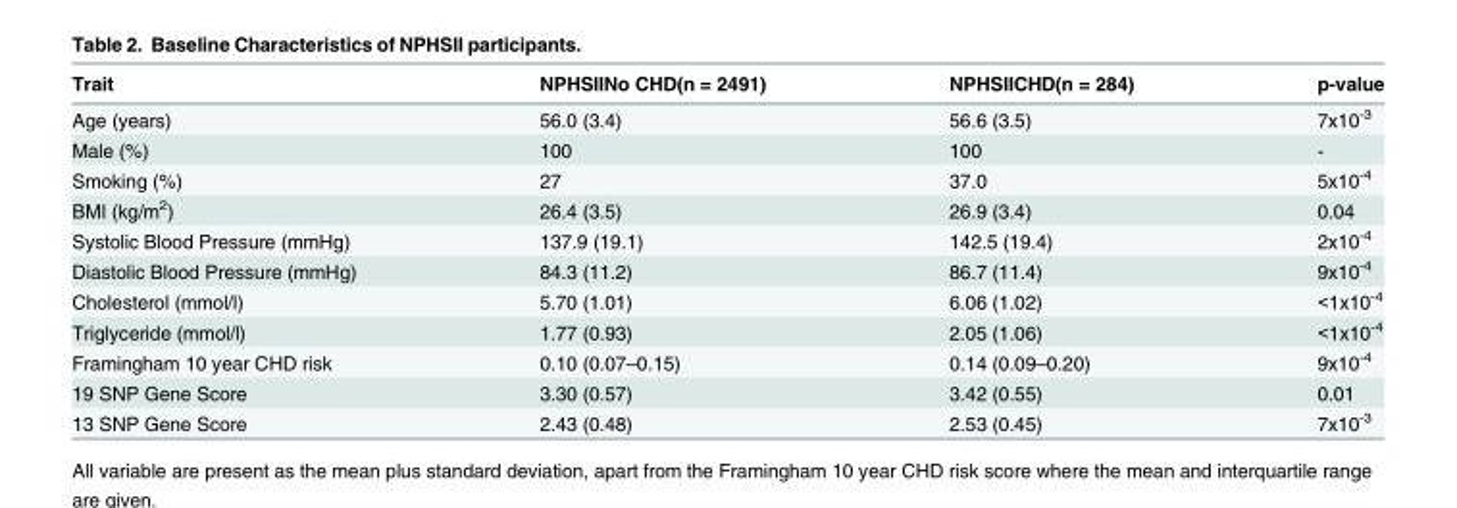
<table><thead><tr><td>Trait</td><td>NPHSIINo CHD(n = 2491)</td><td>NPHSIICHD(n = 284)</td><td>p-value</td></tr></thead><tbody><tr><td>Age (years)</td><td>56.0 (3.4)</td><td>56.6 (3.5)</td><td>7x10<sup>-3</sup></td></tr><tr><td>Male (%)</td><td>100</td><td>100</td><td>-</td></tr><tr><td>Smoking (%)</td><td>27</td><td>37.0</td><td>5x10<sup>-4</sup></td></tr><tr><td>BMI (kg/m<sup>2</sup>)</td><td>26.4 (3.5)</td><td>26.9 (3.4)</td><td>0.04</td></tr><tr><td>Systolic Blood Pressure (mmHg)</td><td>137.9 (19.1)</td><td>142.5 (19.4)</td><td>2x10<sup>-4</sup></td></tr><tr><td>Diastolic Blood Pressure (mmHg)</td><td>84.3 (11.2)</td><td>86.7 (11.4)</td><td>9x10<sup>-4</sup></td></tr><tr><td>Cholesterol (mmol/l)</td><td>5.70 (1.01)</td><td>6.06 (1.02)</td><td>&lt;1x10<sup>-4</sup></td></tr><tr><td>Triglyceride (mmol/l)</td><td>1.77 (0.93)</td><td>2.05 (1.06)</td><td>&lt;1x10<sup>-4</sup></td></tr><tr><td>Framingham 10 year CHD risk</td><td>0.10 (0.07–0.15)</td><td>0.14 (0.09–0.20)</td><td>9x10<sup>-4</sup></td></tr><tr><td>19 SNP Gene Score</td><td>3.30 (0.57)</td><td>3.42 (0.55)</td><td>0.01</td></tr><tr><td>13 SNP Gene Score</td><td>2.43 (0.48)</td><td>2.53 (0.45)</td><td>7x10<sup>-3</sup></td></tr></tbody></table>